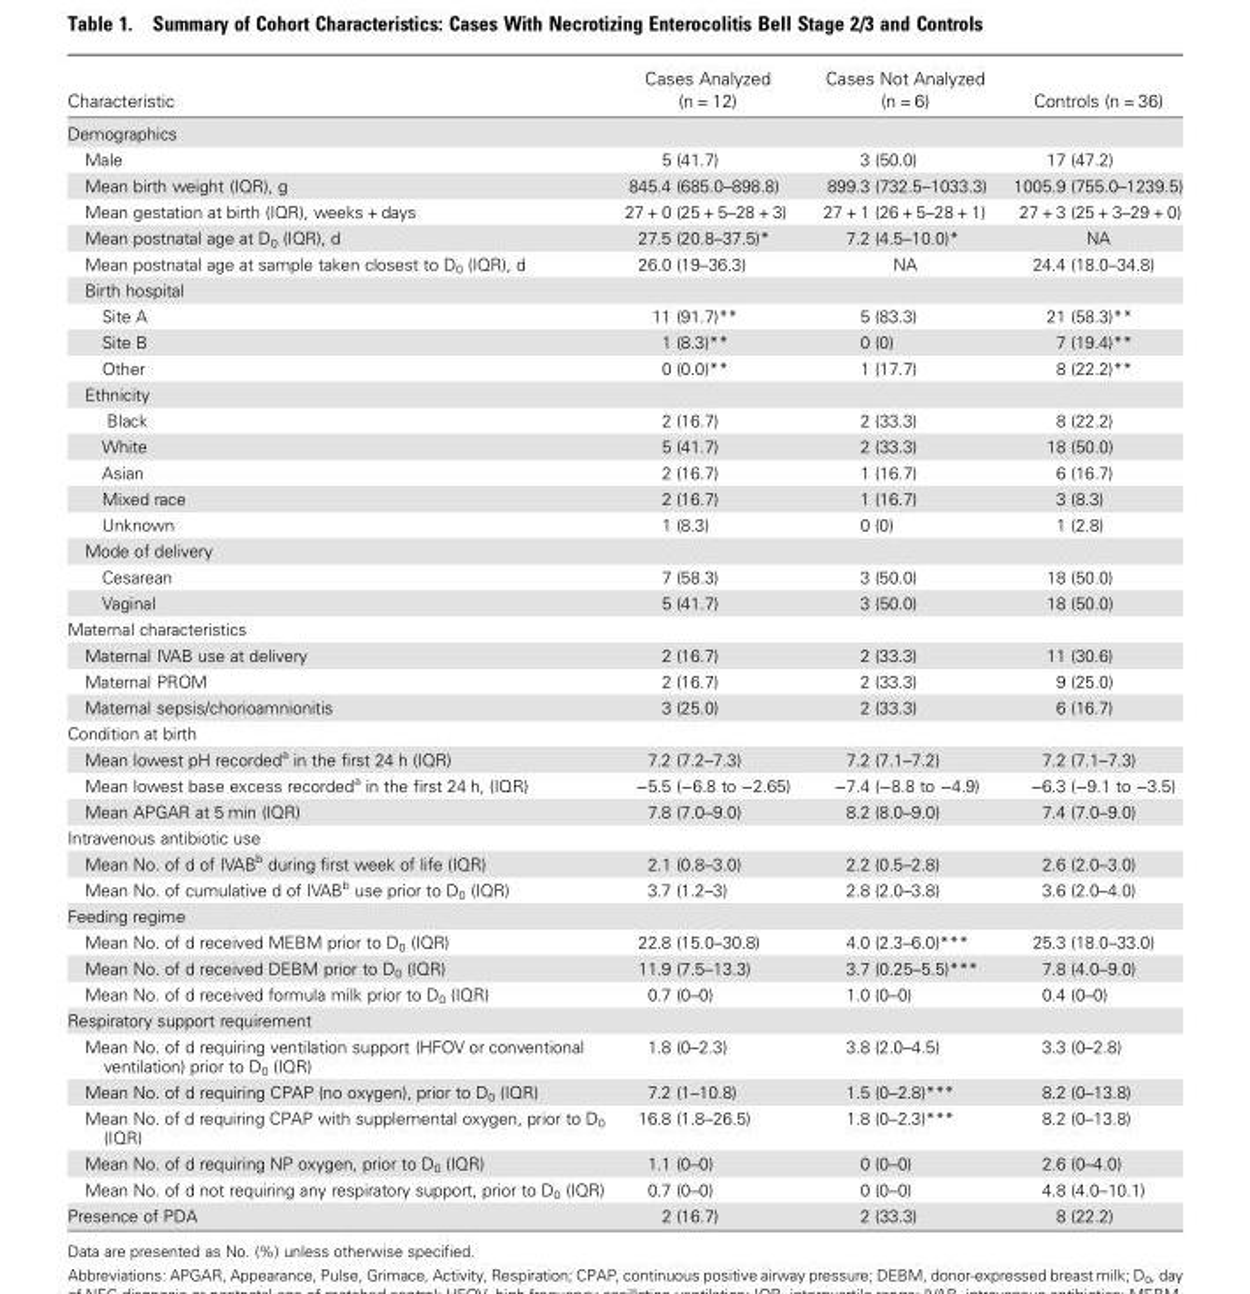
<table><thead><tr><td>Characteristic</td><td>Cases Analyzed (n = 12)</td><td>Cases Not Analyzed (n = 6)</td><td>Controls (n = 36)</td></tr></thead><tbody><tr><td colspan="4">Demographics</td></tr><tr><td>Male</td><td>5 (41.7)</td><td>3 (50.0)</td><td>17 (47.2)</td></tr><tr><td>Mean birth weight (IQR), g</td><td>845.4 (685.0–898.8)</td><td>899.3 (732.5–1033.3)</td><td>1005.9 (755.0–1239.5)</td></tr><tr><td>Mean gestation at birth (IQR), weeks + days</td><td>27 + 0 (25 + 5–28 + 3)</td><td>27 + 1 (26 + 5–28 + 1)</td><td>27 + 3 (25 + 3–29 + 0)</td></tr><tr><td>Mean postnatal age at D<sub>0</sub> (IQR), d</td><td>27.5 (20.8–37.5)*</td><td>7.2 (4.5–10.0)*</td><td>NA</td></tr><tr><td>Mean postnatal age at sample taken closest to D<sub>0</sub> (IQR), d</td><td>26.0 (19–36.3)</td><td>NA</td><td>24.4 (18.0–34.8)</td></tr><tr><td colspan="4">Birth hospital</td></tr><tr><td>Site A</td><td>11 (91.7)**</td><td>5 (83.3)</td><td>21 (58.3)**</td></tr><tr><td>Site B</td><td>1 (8.3)**</td><td>0 (0)</td><td>7 (19.4)**</td></tr><tr><td>Other</td><td>0 (0.0)**</td><td>1 (17.7)</td><td>8 (22.2)**</td></tr><tr><td colspan="4">Ethnicity</td></tr><tr><td>Black</td><td>2 (16.7)</td><td>2 (33.3)</td><td>8 (22.2)</td></tr><tr><td>White</td><td>5 (41.7)</td><td>2 (33.3)</td><td>18 (50.0)</td></tr><tr><td>Asian</td><td>2 (16.7)</td><td>1 (16.7)</td><td>6 (16.7)</td></tr><tr><td>Mixed race</td><td>2 (16.7)</td><td>1 (16.7)</td><td>3 (8.3)</td></tr><tr><td>Unknown</td><td>1 (8.3)</td><td>0 (0)</td><td>1 (2.8)</td></tr><tr><td colspan="4">Mode of delivery</td></tr><tr><td>Cesarean</td><td>7 (58.3)</td><td>3 (50.0)</td><td>18 (50.0)</td></tr><tr><td>Vaginal</td><td>5 (41.7)</td><td>3 (50.0)</td><td>18 (50.0)</td></tr><tr><td colspan="4">Maternal characteristics</td></tr><tr><td>Maternal IVAB use at delivery</td><td>2 (16.7)</td><td>2 (33.3)</td><td>11 (30.6)</td></tr><tr><td>Maternal PROM</td><td>2 (16.7)</td><td>2 (33.3)</td><td>9 (25.0)</td></tr><tr><td>Maternal sepsis/chorioamnionitis</td><td>3 (25.0)</td><td>2 (33.3)</td><td>6 (16.7)</td></tr><tr><td colspan="4">Condition at birth</td></tr><tr><td>Mean lowest pH recorded<sup>a</sup> in the first 24 h (IQR)</td><td>7.2 (7.2–7.3)</td><td>7.2 (7.1–7.2)</td><td>7.2 (7.1–7.3)</td></tr><tr><td>Mean lowest base excess recorded<sup>a</sup> in the first 24 h, (IQR)</td><td>−5.5 (−6.8 to −2.65)</td><td>−7.4 (−8.8 to −4.9)</td><td>−6.3 (−9.1 to −3.5)</td></tr><tr><td>Mean APGAR at 5 min (IQR)</td><td>7.8 (7.0–9.0)</td><td>8.2 (8.0–9.0)</td><td>7.4 (7.0–9.0)</td></tr><tr><td colspan="4">Intravenous antibiotic use</td></tr><tr><td>Mean No. of d of IVAB<sup>b</sup> during first week of life (IQR)</td><td>2.1 (0.8–3.0)</td><td>2.2 (0.5–2.8)</td><td>2.6 (2.0–3.0)</td></tr><tr><td>Mean No. of cumulative d of IVAB<sup>b</sup> use prior to D<sub>0</sub> (IQR)</td><td>3.7 (1.2–3)</td><td>2.8 (2.0–3.8)</td><td>3.6 (2.0–4.0)</td></tr><tr><td colspan="4">Feeding regime</td></tr><tr><td>Mean No. of d received MEBM prior to D<sub>0</sub> (IQR)</td><td>22.8 (15.0–30.8)</td><td>4.0 (2.3–6.0)***</td><td>25.3 (18.0–33.0)</td></tr><tr><td>Mean No. of d received DEBM prior to D<sub>0</sub> (IQR)</td><td>11.9 (7.5–13.3)</td><td>3.7 (0.25–5.5)***</td><td>7.8 (4.0–9.0)</td></tr><tr><td>Mean No. of d received formula milk prior to D<sub>0</sub> (IQR)</td><td>0.7 (0–0)</td><td>1.0 (0–0)</td><td>0.4 (0–0)</td></tr><tr><td colspan="4">Respiratory support requirement</td></tr><tr><td>Mean No. of d requiring ventilation support (HFOV or conventional ventilation) prior to D<sub>0</sub> (IQR)</td><td>1.8 (0–2.3)</td><td>3.8 (2.0–4.5)</td><td>3.3 (0–2.8)</td></tr><tr><td>Mean No. of d requiring CPAP (no oxygen), prior to D<sub>0</sub> (IQR)</td><td>7.2 (1–10.8)</td><td>1.5 (0–2.8)***</td><td>8.2 (0–13.8)</td></tr><tr><td>Mean No. of d requiring CPAP with supplemental oxygen, prior to D<sub>0</sub> (IQR)</td><td>16.8 (1.8–26.5)</td><td>1.8 (0–2.3)***</td><td>8.2 (0–13.8)</td></tr><tr><td>Mean No. of d requiring NP oxygen, prior to D<sub>0</sub> (IQR)</td><td>1.1 (0–0)</td><td>0 (0–0)</td><td>2.6 (0–4.0)</td></tr><tr><td>Mean No. of d not requiring any respiratory support, prior to D<sub>0</sub> (IQR)</td><td>0.7 (0–0)</td><td>0 (0–0)</td><td>4.8 (4.0–10.1)</td></tr><tr><td>Presence of PDA</td><td>2 (16.7)</td><td>2 (33.3)</td><td>8 (22.2)</td></tr></tbody></table>